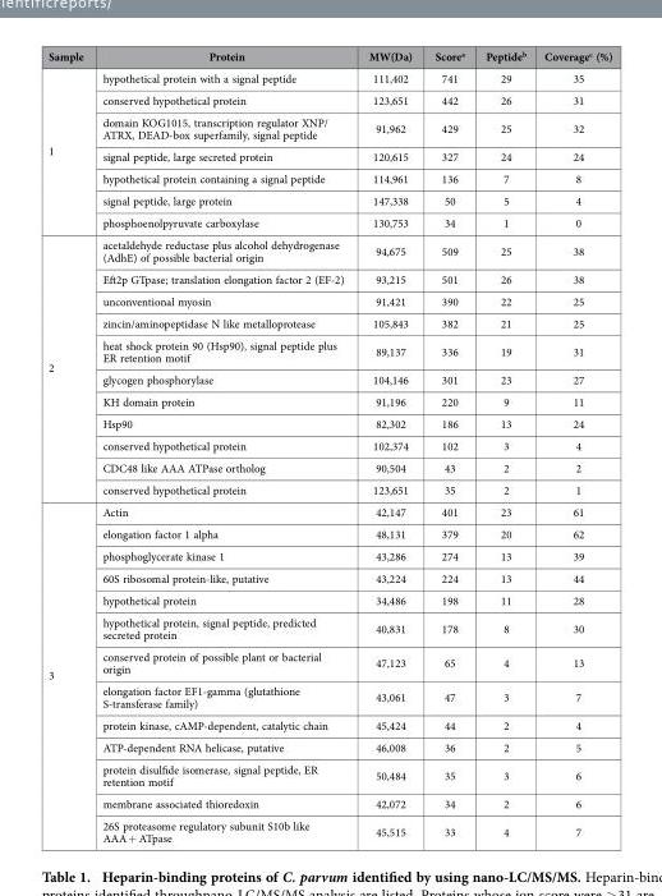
<table><thead><tr><td>Sample</td><td>Protein</td><td>MW(Da)</td><td>Score<sup>a</sup></td><td>Peptide<sup>b</sup></td><td>Coverage<sup>c</sup> (%)</td></tr></thead><tbody><tr><td rowspan="7">1</td><td>hypothetical protein with a signal peptide</td><td>111,402</td><td>741</td><td>29</td><td>35</td></tr><tr><td>conserved hypothetical protein</td><td>123,651</td><td>442</td><td>26</td><td>31</td></tr><tr><td>domain KOG1015, transcription regulator XNP/ ATRX, DEAD-box superfamily, signal peptide</td><td>91,962</td><td>429</td><td>25</td><td>32</td></tr><tr><td>signal peptide, large secreted protein</td><td>120,615</td><td>327</td><td>24</td><td>24</td></tr><tr><td>hypothetical protein containing a signal peptide</td><td>114,961</td><td>136</td><td>7</td><td>8</td></tr><tr><td>signal peptide, large protein</td><td>147,338</td><td>50</td><td>5</td><td>4</td></tr><tr><td>phosphoenolpyruvate carboxylase</td><td>130,753</td><td>34</td><td>1</td><td>0</td></tr><tr><td rowspan="11">2</td><td>acetaldehyde reductase plus alcohol dehydrogenase (AdhE) of possible bacterial origin</td><td>94,675</td><td>509</td><td>25</td><td>38</td></tr><tr><td>Eft2p GTpase; translation elongation factor 2 (EF-2)</td><td>93,215</td><td>501</td><td>26</td><td>38</td></tr><tr><td>unconventional myosin</td><td>91,421</td><td>390</td><td>22</td><td>25</td></tr><tr><td>zincin/aminopeptidase N like metalloprotease</td><td>105,843</td><td>382</td><td>21</td><td>25</td></tr><tr><td>heat shock protein 90 (Hsp90), signal peptide plus ER retention motif</td><td>89,137</td><td>336</td><td>19</td><td>31</td></tr><tr><td>glycogen phosphorylase</td><td>104,146</td><td>301</td><td>23</td><td>27</td></tr><tr><td>KH domain protein</td><td>91,196</td><td>220</td><td>9</td><td>11</td></tr><tr><td>Hsp90</td><td>82,302</td><td>186</td><td>13</td><td>24</td></tr><tr><td>conserved hypothetical protein</td><td>102,374</td><td>102</td><td>3</td><td>4</td></tr><tr><td>CDC48 like AAA ATPase ortholog</td><td>90,504</td><td>43</td><td>2</td><td>2</td></tr><tr><td>conserved hypothetical protein</td><td>123,651</td><td>35</td><td>2</td><td>1</td></tr><tr><td rowspan="13">3</td><td>Actin</td><td>42,147</td><td>401</td><td>23</td><td>61</td></tr><tr><td>elongation factor 1 alpha</td><td>48,131</td><td>379</td><td>20</td><td>62</td></tr><tr><td>phosphoglycerate kinase 1</td><td>43,286</td><td>274</td><td>13</td><td>39</td></tr><tr><td>60S ribosomal protein-like, putative</td><td>43,224</td><td>224</td><td>13</td><td>44</td></tr><tr><td>hypothetical protein</td><td>34,486</td><td>198</td><td>11</td><td>28</td></tr><tr><td>hypothetical protein, signal peptide, predicted secreted protein</td><td>40,831</td><td>178</td><td>8</td><td>30</td></tr><tr><td>conserved protein of possible plant or bacterial origin</td><td>47,123</td><td>65</td><td>4</td><td>13</td></tr><tr><td>elongation factor EF1-gamma (glutathione S-transferase family)</td><td>43,061</td><td>47</td><td>3</td><td>7</td></tr><tr><td>protein kinase, cAMP-dependent, catalytic chain</td><td>45,424</td><td>44</td><td>2</td><td>4</td></tr><tr><td>ATP-dependent RNA helicase, putative</td><td>46,008</td><td>36</td><td>2</td><td>5</td></tr><tr><td>protein disulfide isomerase, signal peptide, ER retention motif</td><td>50,484</td><td>35</td><td>3</td><td>6</td></tr><tr><td>membrane associated thioredoxin</td><td>42,072</td><td>34</td><td>2</td><td>6</td></tr><tr><td>26S proteasome regulatory subunit S10b like AAA + ATpase</td><td>45,515</td><td>33</td><td>4</td><td>7</td></tr></tbody></table>